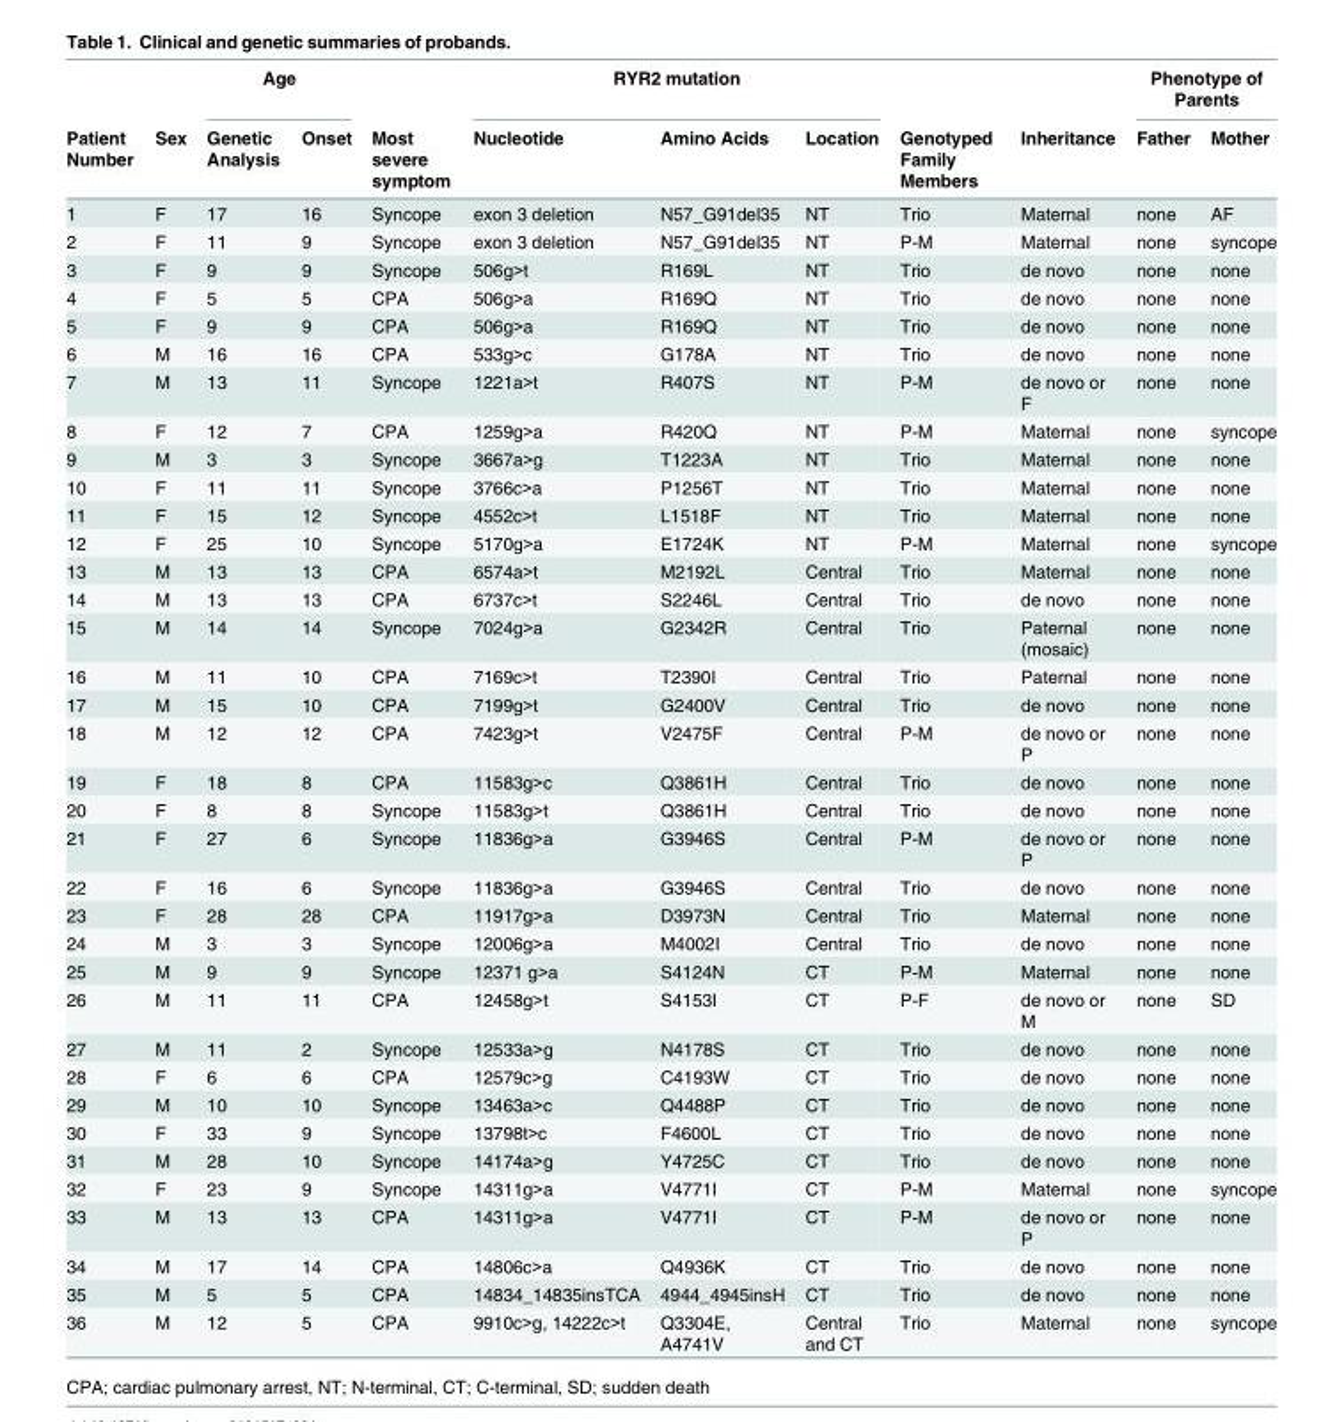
<table><thead><tr><td rowspan="2">Patient Number</td><td rowspan="2">Sex</td><td colspan="2">Age</td><td rowspan="2">Most severe symptom</td><td colspan="3">RYR2 mutation</td><td rowspan="2">Genotyped Family Members</td><td rowspan="2">Inheritance</td><td colspan="2">Phenotype of Parents</td></tr><tr><td>Genetic Analysis</td><td>Onset</td><td>Nucleotide</td><td>Amino Acids</td><td>Location</td><td>Father</td><td>Mother</td></tr></thead><tbody><tr><td>1</td><td>F</td><td>17</td><td>16</td><td>Syncope</td><td>exon 3 deletion</td><td>N57_G91del35</td><td>NT</td><td>Trio</td><td>Maternal</td><td>none</td><td>AF</td></tr><tr><td>2</td><td>F</td><td>11</td><td>9</td><td>Syncope</td><td>exon 3 deletion</td><td>N57_G91del35</td><td>NT</td><td>P-M</td><td>Maternal</td><td>none</td><td>syncope</td></tr><tr><td>3</td><td>F</td><td>9</td><td>9</td><td>Syncope</td><td>506g&gt;t</td><td>R169L</td><td>NT</td><td>Trio</td><td>de novo</td><td>none</td><td>none</td></tr><tr><td>4</td><td>F</td><td>5</td><td>5</td><td>CPA</td><td>506g&gt;a</td><td>R169Q</td><td>NT</td><td>Trio</td><td>de novo</td><td>none</td><td>none</td></tr><tr><td>5</td><td>F</td><td>9</td><td>9</td><td>CPA</td><td>506g&gt;a</td><td>R169Q</td><td>NT</td><td>Trio</td><td>de novo</td><td>none</td><td>none</td></tr><tr><td>6</td><td>M</td><td>16</td><td>16</td><td>CPA</td><td>533g&gt;c</td><td>G178A</td><td>NT</td><td>Trio</td><td>de novo</td><td>none</td><td>none</td></tr><tr><td>7</td><td>M</td><td>13</td><td>11</td><td>Syncope</td><td>1221a&gt;t</td><td>R407S</td><td>NT</td><td>P-M</td><td>de novo or F</td><td>none</td><td>none</td></tr><tr><td>8</td><td>F</td><td>12</td><td>7</td><td>CPA</td><td>1259g&gt;a</td><td>R420Q</td><td>NT</td><td>P-M</td><td>Maternal</td><td>none</td><td>syncope</td></tr><tr><td>9</td><td>M</td><td>3</td><td>3</td><td>Syncope</td><td>3667a&gt;g</td><td>T1223A</td><td>NT</td><td>Trio</td><td>Maternal</td><td>none</td><td>none</td></tr><tr><td>10</td><td>F</td><td>11</td><td>11</td><td>Syncope</td><td>3766c&gt;a</td><td>P1256T</td><td>NT</td><td>Trio</td><td>Maternal</td><td>none</td><td>none</td></tr><tr><td>11</td><td>F</td><td>15</td><td>12</td><td>Syncope</td><td>4552c&gt;t</td><td>L1518F</td><td>NT</td><td>Trio</td><td>Maternal</td><td>none</td><td>none</td></tr><tr><td>12</td><td>F</td><td>25</td><td>10</td><td>Syncope</td><td>5170g&gt;a</td><td>E1724K</td><td>NT</td><td>P-M</td><td>Maternal</td><td>none</td><td>syncope</td></tr><tr><td>13</td><td>M</td><td>13</td><td>13</td><td>CPA</td><td>6574a&gt;t</td><td>M2192L</td><td>Central</td><td>Trio</td><td>Maternal</td><td>none</td><td>none</td></tr><tr><td>14</td><td>M</td><td>13</td><td>13</td><td>CPA</td><td>6737c&gt;t</td><td>S2246L</td><td>Central</td><td>Trio</td><td>de novo</td><td>none</td><td>none</td></tr><tr><td>15</td><td>M</td><td>14</td><td>14</td><td>Syncope</td><td>7024g&gt;a</td><td>G2342R</td><td>Central</td><td>Trio</td><td>Paternal (mosaic)</td><td>none</td><td>none</td></tr><tr><td>16</td><td>M</td><td>11</td><td>10</td><td>CPA</td><td>7169c&gt;t</td><td>T2390I</td><td>Central</td><td>Trio</td><td>Paternal</td><td>none</td><td>none</td></tr><tr><td>17</td><td>M</td><td>15</td><td>10</td><td>CPA</td><td>7199g&gt;t</td><td>G2400V</td><td>Central</td><td>Trio</td><td>de novo</td><td>none</td><td>none</td></tr><tr><td>18</td><td>M</td><td>12</td><td>12</td><td>CPA</td><td>7423g&gt;t</td><td>V2475F</td><td>Central</td><td>P-M</td><td>de novo or P</td><td>none</td><td>none</td></tr><tr><td>19</td><td>F</td><td>18</td><td>8</td><td>CPA</td><td>11583g&gt;c</td><td>Q3861H</td><td>Central</td><td>Trio</td><td>de novo</td><td>none</td><td>none</td></tr><tr><td>20</td><td>F</td><td>8</td><td>8</td><td>Syncope</td><td>11583g&gt;t</td><td>Q3861H</td><td>Central</td><td>Trio</td><td>de novo</td><td>none</td><td>none</td></tr><tr><td>21</td><td>F</td><td>27</td><td>6</td><td>Syncope</td><td>11836g&gt;a</td><td>G3946S</td><td>Central</td><td>P-M</td><td>de novo or P</td><td>none</td><td>none</td></tr><tr><td>22</td><td>F</td><td>16</td><td>6</td><td>Syncope</td><td>11836g&gt;a</td><td>G3946S</td><td>Central</td><td>Trio</td><td>de novo</td><td>none</td><td>none</td></tr><tr><td>23</td><td>F</td><td>28</td><td>28</td><td>CPA</td><td>11917g&gt;a</td><td>D3973N</td><td>Central</td><td>Trio</td><td>Maternal</td><td>none</td><td>none</td></tr><tr><td>24</td><td>M</td><td>3</td><td>3</td><td>Syncope</td><td>12006g&gt;a</td><td>M4002I</td><td>Central</td><td>Trio</td><td>de novo</td><td>none</td><td>none</td></tr><tr><td>25</td><td>M</td><td>9</td><td>9</td><td>Syncope</td><td>12371 g&gt;a</td><td>S4124N</td><td>CT</td><td>P-M</td><td>Maternal</td><td>none</td><td>none</td></tr><tr><td>26</td><td>M</td><td>11</td><td>11</td><td>CPA</td><td>12458g&gt;t</td><td>S4153I</td><td>CT</td><td>P-F</td><td>de novo or M</td><td>none</td><td>SD</td></tr><tr><td>27</td><td>M</td><td>11</td><td>2</td><td>Syncope</td><td>12533a&gt;g</td><td>N4178S</td><td>CT</td><td>Trio</td><td>de novo</td><td>none</td><td>none</td></tr><tr><td>28</td><td>F</td><td>6</td><td>6</td><td>CPA</td><td>12579c&gt;g</td><td>C4193W</td><td>CT</td><td>Trio</td><td>de novo</td><td>none</td><td>none</td></tr><tr><td>29</td><td>M</td><td>10</td><td>10</td><td>Syncope</td><td>13463a&gt;c</td><td>Q4488P</td><td>CT</td><td>Trio</td><td>de novo</td><td>none</td><td>none</td></tr><tr><td>30</td><td>F</td><td>33</td><td>9</td><td>Syncope</td><td>13798t&gt;c</td><td>F4600L</td><td>CT</td><td>Trio</td><td>de novo</td><td>none</td><td>none</td></tr><tr><td>31</td><td>M</td><td>28</td><td>10</td><td>Syncope</td><td>14174a&gt;g</td><td>Y4725C</td><td>CT</td><td>Trio</td><td>de novo</td><td>none</td><td>none</td></tr><tr><td>32</td><td>F</td><td>23</td><td>9</td><td>Syncope</td><td>14311g&gt;a</td><td>V4771I</td><td>CT</td><td>P-M</td><td>Maternal</td><td>none</td><td>syncope</td></tr><tr><td>33</td><td>M</td><td>13</td><td>13</td><td>CPA</td><td>14311g&gt;a</td><td>V4771I</td><td>CT</td><td>P-M</td><td>de novo or P</td><td>none</td><td>none</td></tr><tr><td>34</td><td>M</td><td>17</td><td>14</td><td>CPA</td><td>14806c&gt;a</td><td>Q4936K</td><td>CT</td><td>Trio</td><td>de novo</td><td>none</td><td>none</td></tr><tr><td>35</td><td>M</td><td>5</td><td>5</td><td>CPA</td><td>14834_14835insTCA</td><td>4944_4945insH</td><td>CT</td><td>Trio</td><td>de novo</td><td>none</td><td>none</td></tr><tr><td>36</td><td>M</td><td>12</td><td>5</td><td>CPA</td><td>9910c&gt;g, 14222c&gt;t</td><td>Q3304E, A4741V</td><td>Central and CT</td><td>Trio</td><td>Maternal</td><td>none</td><td>syncope</td></tr></tbody></table>